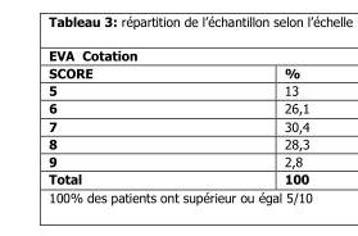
<table><thead><tr><td colspan="2">EVA Cotation</td></tr><tr><td>SCORE</td><td>%</td></tr></thead><tbody><tr><td>5</td><td>13</td></tr><tr><td>6</td><td>26,1</td></tr><tr><td>7</td><td>30,4</td></tr><tr><td>8</td><td>28,3</td></tr><tr><td>9</td><td>2,8</td></tr><tr><td>Total</td><td>100</td></tr></tbody></table>